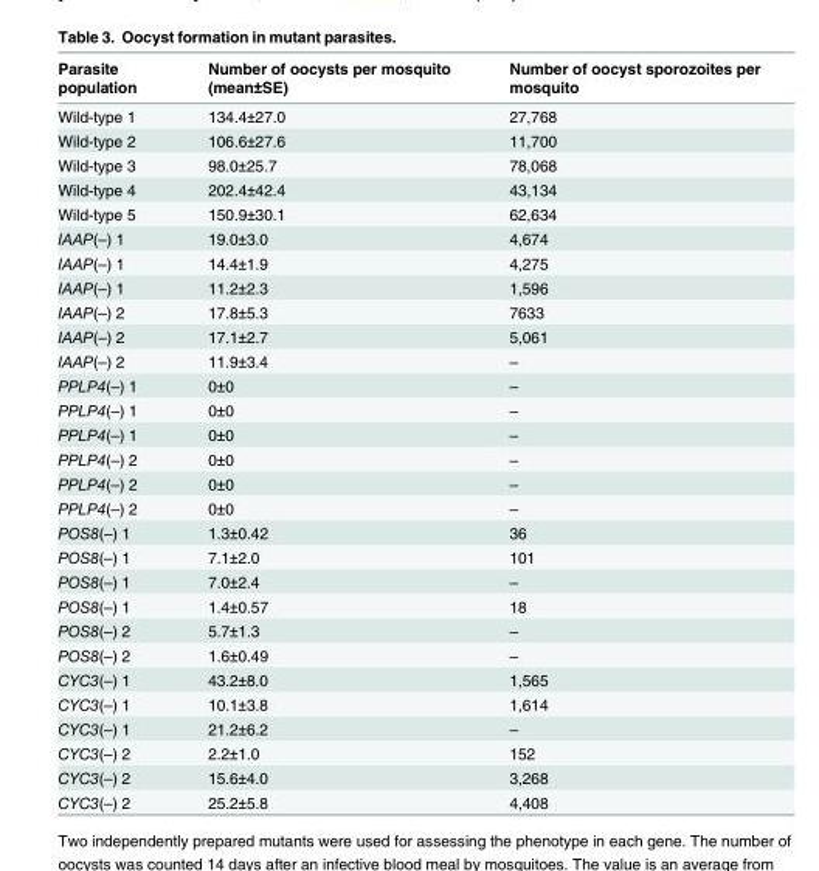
<table><thead><tr><td>Parasite population</td><td>Number of oocysts per mosquito (mean±SE)</td><td>Number of oocyst sporozoites per mosquito</td></tr></thead><tbody><tr><td>Wild-type 1</td><td>134.4±27.0</td><td>27,768</td></tr><tr><td>Wild-type 2</td><td>106.6±27.6</td><td>11,700</td></tr><tr><td>Wild-type 3</td><td>98.0±25.7</td><td>78,068</td></tr><tr><td>Wild-type 4</td><td>202.4±42.4</td><td>43,134</td></tr><tr><td>Wild-type 5</td><td>150.9±30.1</td><td>62,634</td></tr><tr><td>IAAP(–) 1</td><td>19.0±3.0</td><td>4,674</td></tr><tr><td>IAAP(–) 1</td><td>14.4±1.9</td><td>4,275</td></tr><tr><td>IAAP(–) 1</td><td>11.2±2.3</td><td>1,596</td></tr><tr><td>IAAP(–) 2</td><td>17.8±5.3</td><td>7633</td></tr><tr><td>IAAP(–) 2</td><td>17.1±2.7</td><td>5,061</td></tr><tr><td>IAAP(–) 2</td><td>11.9±3.4</td><td>–</td></tr><tr><td>PPLP4(–) 1</td><td>0±0</td><td>–</td></tr><tr><td>PPLP4(–) 1</td><td>0±0</td><td>–</td></tr><tr><td>PPLP4(–) 1</td><td>0±0</td><td>–</td></tr><tr><td>PPLP4(–) 2</td><td>0±0</td><td>–</td></tr><tr><td>PPLP4(–) 2</td><td>0±0</td><td>–</td></tr><tr><td>PPLP4(–) 2</td><td>0±0</td><td>–</td></tr><tr><td>POS8(–) 1</td><td>1.3±0.42</td><td>36</td></tr><tr><td>POS8(–) 1</td><td>7.1±2.0</td><td>101</td></tr><tr><td>POS8(–) 1</td><td>7.0±2.4</td><td>–</td></tr><tr><td>POS8(–) 1</td><td>1.4±0.57</td><td>18</td></tr><tr><td>POS8(–) 2</td><td>5.7±1.3</td><td>–</td></tr><tr><td>POS8(–) 2</td><td>1.6±0.49</td><td>–</td></tr><tr><td>CYC3(–) 1</td><td>43.2±8.0</td><td>1,565</td></tr><tr><td>CYC3(–) 1</td><td>10.1±3.8</td><td>1,614</td></tr><tr><td>CYC3(–) 1</td><td>21.2±6.2</td><td>–</td></tr><tr><td>CYC3(–) 2</td><td>2.2±1.0</td><td>152</td></tr><tr><td>CYC3(–) 2</td><td>15.6±4.0</td><td>3,268</td></tr><tr><td>CYC3(–) 2</td><td>25.2±5.8</td><td>4,408</td></tr></tbody></table>